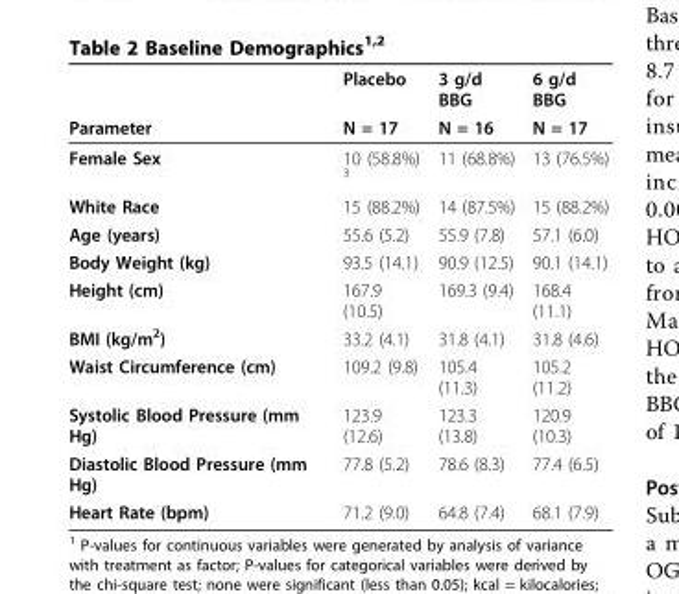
<table><thead><tr><td rowspan="2">Parameter</td><td rowspan="2">Placebo N = 17</td><td rowspan="2">3 g/d BBG N = 16</td><td rowspan="2">6 g/d BBG N = 17</td></tr><tr></tr></thead><tbody><tr><td>Female Sex</td><td>10 (58.8%) <sup>3</sup></td><td>11 (68.8%)</td><td>13 (76.5%)</td></tr><tr><td>White Race</td><td>15 (88.2%)</td><td>14 (87.5%)</td><td>15 (88.2%)</td></tr><tr><td>Age (years)</td><td>55.6 (5.2)</td><td>55.9 (7.8)</td><td>57.1 (6.0)</td></tr><tr><td>Body Weight (kg)</td><td>93.5 (14.1)</td><td>90.9 (12.5)</td><td>90.1 (14.1)</td></tr><tr><td>Height (cm)</td><td>167.9 (10.5)</td><td>169.3 (9.4)</td><td>168.4 (11.1)</td></tr><tr><td>BMI (kg/m<sup>2</sup>)</td><td>33.2 (4.1)</td><td>31.8 (4.1)</td><td>31.8 (4.6)</td></tr><tr><td>Waist Circumference (cm)</td><td>109.2 (9.8)</td><td>105.4 (11.3)</td><td>105.2 (11.2)</td></tr><tr><td>Systolic Blood Pressure (mm Hg)</td><td>123.9 (12.6)</td><td>123.3 (13.8)</td><td>120.9 (10.3)</td></tr><tr><td>Diastolic Blood Pressure (mm Hg)</td><td>77.8 (5.2)</td><td>78.6 (8.3)</td><td>77.4 (6.5)</td></tr><tr><td>Heart Rate (bpm)</td><td>71.2 (9.0)</td><td>64.8 (7.4)</td><td>68.1 (7.9)</td></tr></tbody></table>